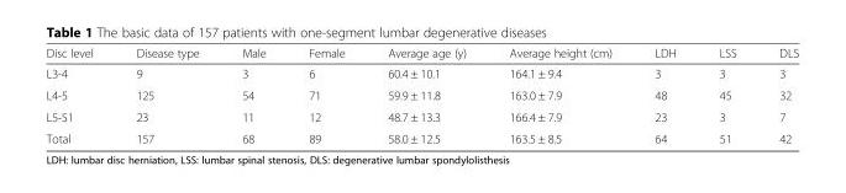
<table><thead><tr><td>Disc level</td><td>Disease type</td><td>Male</td><td>Female</td><td>Average age (y)</td><td>Average height (cm)</td><td>LDH</td><td>LSS</td><td>DLS</td></tr></thead><tbody><tr><td>L3-4</td><td>9</td><td>3</td><td>6</td><td>60.4 ± 10.1</td><td>164.1 ± 9.4</td><td>3</td><td>3</td><td>3</td></tr><tr><td>L4-5</td><td>125</td><td>54</td><td>71</td><td>59.9 ± 11.8</td><td>163.0 ± 7.9</td><td>48</td><td>45</td><td>32</td></tr><tr><td>L5-S1</td><td>23</td><td>11</td><td>12</td><td>48.7 ± 13.3</td><td>166.4 ± 7.9</td><td>23</td><td>3</td><td>7</td></tr><tr><td>Total</td><td>157</td><td>68</td><td>89</td><td>58.0 ± 12.5</td><td>163.5 ± 8.5</td><td>64</td><td>51</td><td>42</td></tr></tbody></table>